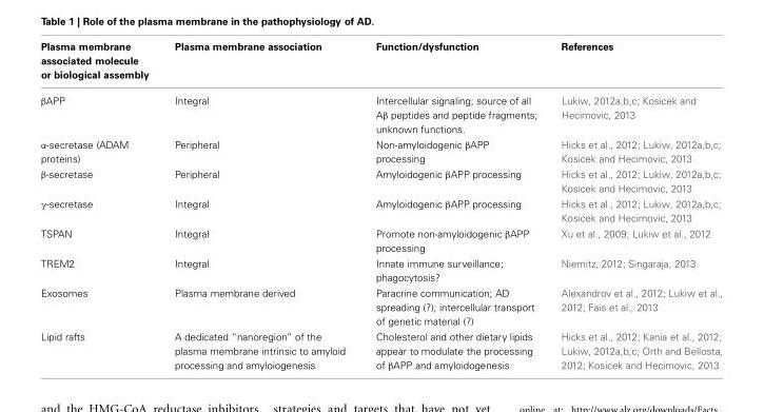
<table><thead><tr><td>Plasma membrane associated molecule or biological assembly</td><td>Plasma membrane association</td><td>Function/dysfunction</td><td>References</td></tr></thead><tbody><tr><td>βAPP</td><td>Integral</td><td>Intercellular signaling; source of all Aβ peptides and peptide fragments; unknown functions.</td><td>Lukiw, 2012a,b,c; Kosicek and Hecimovic, 2013</td></tr><tr><td>α-secretase (ADAM proteins)</td><td>Peripheral</td><td>Non-amyloidogenic βAPP processing</td><td>Hicks et al., 2012; Lukiw, 2012a,b,c; Kosicek and Hecimovic, 2013</td></tr><tr><td>β-secretase</td><td>Peripheral</td><td>Amyloidogenic βAPP processing</td><td>Hicks et al., 2012; Lukiw, 2012a,b,c; Kosicek and Hecimovic, 2013</td></tr><tr><td>γ-secretase</td><td>Integral</td><td>Amyloidogenic βAPP processing</td><td>Hicks et al., 2012; Lukiw, 2012a,b,c; Kosicek and Hecimovic, 2013</td></tr><tr><td>TSPAN</td><td>Integral</td><td>Promote non-amyloidogenic βAPP processing</td><td>Xu et al., 2009; Lukiw et al., 2012</td></tr><tr><td>TREM2</td><td>Integral</td><td>Innate immune surveillance; phagocytosis?</td><td>Niemitz, 2012; Singaraja, 2013</td></tr><tr><td>Exosomes</td><td>Plasma membrane derived</td><td>Paracrine communication; AD spreading (?); intercellular transport of genetic material (?)</td><td>Alexandrov et al., 2012; Lukiw et al., 2012; Fais et al., 2013</td></tr><tr><td>Lipid rafts</td><td>A dedicated “nanoregion” of the plasma membrane intrinsic to amyloid processing and amyloiogenesis</td><td>Cholesterol and other dietary lipids appear to modulate the processing of βAPP and amyloidogenesis</td><td>Hicks et al., 2012; Kania et al., 2012; Lukiw, 2012a,b,c; Orth and Bellosta, 2012; Kosicek and Hecimovic, 2013</td></tr></tbody></table>